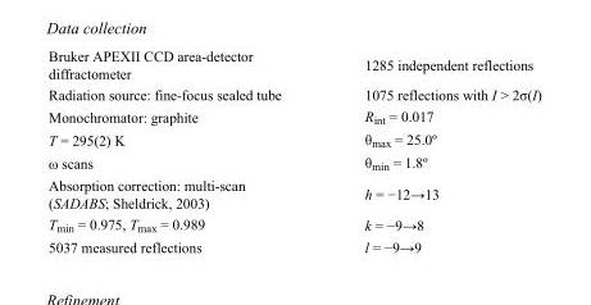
<table><tbody><tr><td>Bruker APEXII CCD area-detector diffractometer</td><td>1285 independent reflections</td></tr><tr><td>Radiation source: fine-focus sealed tube</td><td>1075 reflections with I &gt; 2σ(I)</td></tr><tr><td>Monochromator: graphite</td><td>R<sub>int</sub> = 0.017</td></tr><tr><td>T = 295(2) K</td><td>θ<sub>max</sub> = 25.0º</td></tr><tr><td>ω scans</td><td>θ<sub>min</sub> = 1.8º</td></tr><tr><td>Absorption correction: multi-scan (SADABS; Sheldrick, 2003)</td><td>h = −12→13</td></tr><tr><td>T<sub>min</sub> = 0.975, T<sub>max</sub> = 0.989</td><td>k = −9→8</td></tr><tr><td>5037 measured reflections</td><td>l = −9→9</td></tr></tbody></table>